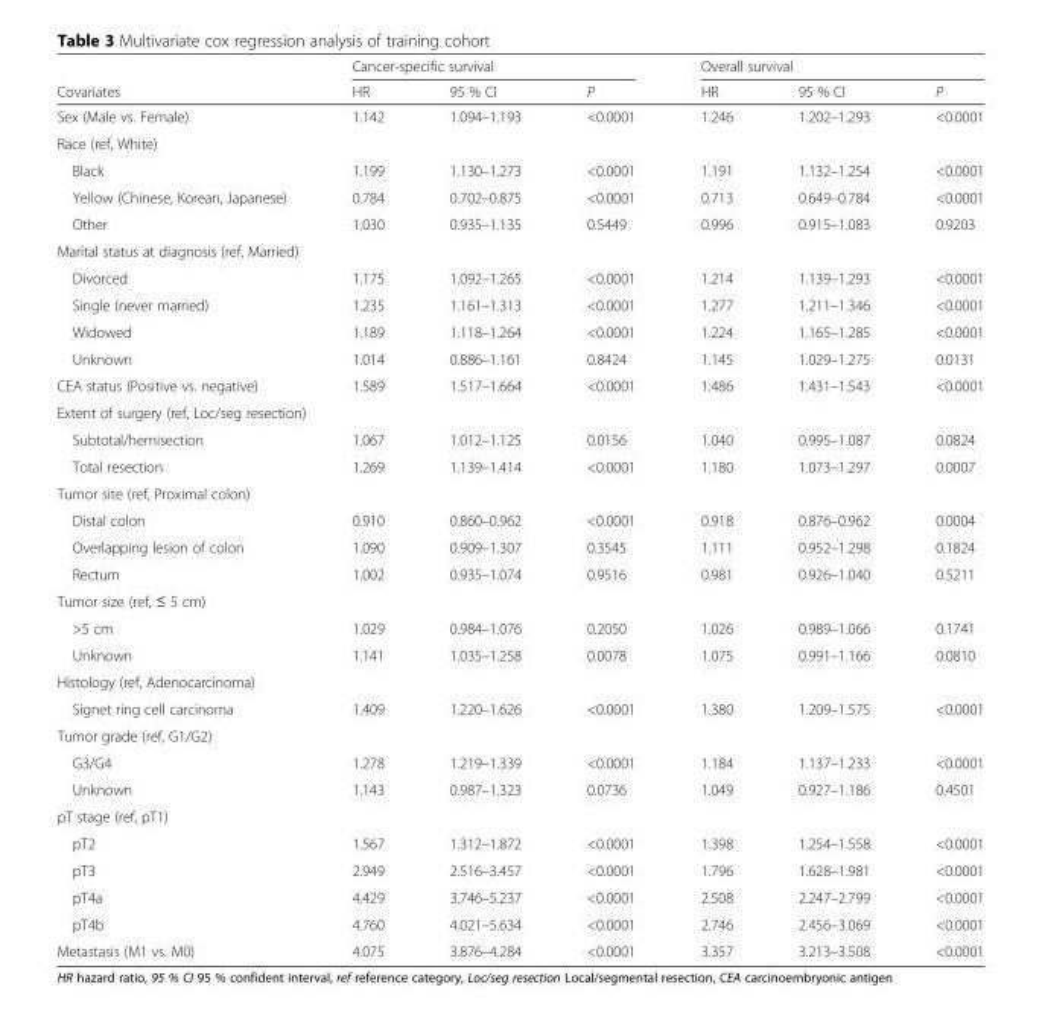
<table><thead><tr><td rowspan="2">Covariates</td><td colspan="3">Cancer-specific survival</td><td colspan="3">Overall survival</td></tr><tr><td>HR</td><td>95 % CI</td><td>P</td><td>HR</td><td>95 % CI</td><td>P</td></tr></thead><tbody><tr><td>Sex (Male vs. Female)</td><td>1.142</td><td>1.094–1.193</td><td>&lt;0.0001</td><td>1.246</td><td>1.202–1.293</td><td>&lt;0.0001</td></tr><tr><td colspan="7">Race (ref, White)</td></tr><tr><td>Black</td><td>1.199</td><td>1.130–1.273</td><td>&lt;0.0001</td><td>1.191</td><td>1.132–1.254</td><td>&lt;0.0001</td></tr><tr><td>Yellow (Chinese, Korean, Japanese)</td><td>0.784</td><td>0.702–0.875</td><td>&lt;0.0001</td><td>0.713</td><td>0.649–0.784</td><td>&lt;0.0001</td></tr><tr><td>Other</td><td>1.030</td><td>0.935–1.135</td><td>0.5449</td><td>0.996</td><td>0.915–1.083</td><td>0.9203</td></tr><tr><td colspan="7">Marital status at diagnosis (ref, Married)</td></tr><tr><td>Divorced</td><td>1.175</td><td>1.092–1.265</td><td>&lt;0.0001</td><td>1.214</td><td>1.139–1.293</td><td>&lt;0.0001</td></tr><tr><td>Single (never married)</td><td>1.235</td><td>1.161–1.313</td><td>&lt;0.0001</td><td>1.277</td><td>1.211–1.346</td><td>&lt;0.0001</td></tr><tr><td>Widowed</td><td>1.189</td><td>1.118–1.264</td><td>&lt;0.0001</td><td>1.224</td><td>1.165–1.285</td><td>&lt;0.0001</td></tr><tr><td>Unknown</td><td>1.014</td><td>0.886–1.161</td><td>0.8424</td><td>1.145</td><td>1.029–1.275</td><td>0.0131</td></tr><tr><td>CEA status (Positive vs. negative)</td><td>1.589</td><td>1.517–1.664</td><td>&lt;0.0001</td><td>1.486</td><td>1.431–1.543</td><td>&lt;0.0001</td></tr><tr><td colspan="7">Extent of surgery (ref, Loc/seg resection)</td></tr><tr><td>Subtotal/hemisection</td><td>1.067</td><td>1.012–1.125</td><td>0.0156</td><td>1.040</td><td>0.995–1.087</td><td>0.0824</td></tr><tr><td>Total resection</td><td>1.269</td><td>1.139–1.414</td><td>&lt;0.0001</td><td>1.180</td><td>1.073–1.297</td><td>0.0007</td></tr><tr><td colspan="7">Tumor site (ref, Proximal colon)</td></tr><tr><td>Distal colon</td><td>0.910</td><td>0.860–0.962</td><td>&lt;0.0001</td><td>0.918</td><td>0.876–0.962</td><td>0.0004</td></tr><tr><td>Overlapping lesion of colon</td><td>1.090</td><td>0.909–1.307</td><td>0.3545</td><td>1.111</td><td>0.952–1.298</td><td>0.1824</td></tr><tr><td>Rectum</td><td>1.002</td><td>0.935–1.074</td><td>0.9516</td><td>0.981</td><td>0.926–1.040</td><td>0.5211</td></tr><tr><td colspan="7">Tumor size (ref, ≤ 5 cm)</td></tr><tr><td>&gt;5 cm</td><td>1.029</td><td>0.984–1.076</td><td>0.2050</td><td>1.026</td><td>0.989–1.066</td><td>0.1741</td></tr><tr><td>Unknown</td><td>1.141</td><td>1.035–1.258</td><td>0.0078</td><td>1.075</td><td>0.991–1.166</td><td>0.0810</td></tr><tr><td colspan="7">Histology (ref, Adenocarcinoma)</td></tr><tr><td>Signet ring cell carcinoma</td><td>1.409</td><td>1.220–1.626</td><td>&lt;0.0001</td><td>1.380</td><td>1.209–1.575</td><td>&lt;0.0001</td></tr><tr><td colspan="7">Tumor grade (ref, G1/G2)</td></tr><tr><td>G3/G4</td><td>1.278</td><td>1.219–1.339</td><td>&lt;0.0001</td><td>1.184</td><td>1.137–1.233</td><td>&lt;0.0001</td></tr><tr><td>Unknown</td><td>1.143</td><td>0.987–1.323</td><td>0.0736</td><td>1.049</td><td>0.927–1.186</td><td>0.4501</td></tr><tr><td colspan="7">pT stage (ref, pT1)</td></tr><tr><td>pT2</td><td>1.567</td><td>1.312–1.872</td><td>&lt;0.0001</td><td>1.398</td><td>1.254–1.558</td><td>&lt;0.0001</td></tr><tr><td>pT3</td><td>2.949</td><td>2.516–3.457</td><td>&lt;0.0001</td><td>1.796</td><td>1.628–1.981</td><td>&lt;0.0001</td></tr><tr><td>pT4a</td><td>4.429</td><td>3.746–5.237</td><td>&lt;0.0001</td><td>2.508</td><td>2.247–2.799</td><td>&lt;0.0001</td></tr><tr><td>pT4b</td><td>4.760</td><td>4.021–5.634</td><td>&lt;0.0001</td><td>2.746</td><td>2.456–3.069</td><td>&lt;0.0001</td></tr><tr><td>Metastasis (M1 vs. M0)</td><td>4.075</td><td>3.876–4.284</td><td>&lt;0.0001</td><td>3.357</td><td>3.213–3.508</td><td>&lt;0.0001</td></tr></tbody></table>